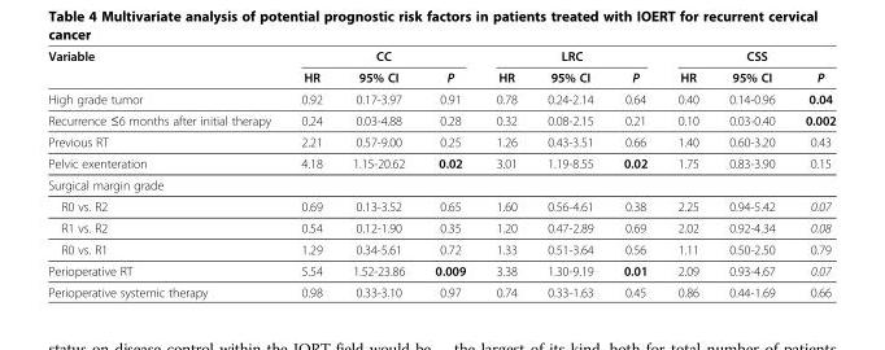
<table><thead><tr><td rowspan="2">Variable</td><td colspan="3">CC</td><td colspan="3">LRC</td><td colspan="3">CSS</td></tr><tr><td>HR</td><td>95% CI</td><td>P</td><td>HR</td><td>95% CI</td><td>P</td><td>HR</td><td>95% CI</td><td>P</td></tr></thead><tbody><tr><td>High grade tumor</td><td>0.92</td><td>0.17-3.97</td><td>0.91</td><td>0.78</td><td>0.24-2.14</td><td>0.64</td><td>0.40</td><td>0.14-0.96</td><td>0.04</td></tr><tr><td>Recurrence ≤6 months after initial therapy</td><td>0.24</td><td>0.03-4.88</td><td>0.28</td><td>0.32</td><td>0.08-2.15</td><td>0.21</td><td>0.10</td><td>0.03-0.40</td><td>0.002</td></tr><tr><td>Previous RT</td><td>2.21</td><td>0.57-9.00</td><td>0.25</td><td>1.26</td><td>0.43-3.51</td><td>0.66</td><td>1.40</td><td>0.60-3.20</td><td>0.43</td></tr><tr><td>Pelvic exenteration</td><td>4.18</td><td>1.15-20.62</td><td>0.02</td><td>3.01</td><td>1.19-8.55</td><td>0.02</td><td>1.75</td><td>0.83-3.90</td><td>0.15</td></tr><tr><td colspan="10">Surgical margin grade</td></tr><tr><td>R0 vs. R2</td><td>0.69</td><td>0.13-3.52</td><td>0.65</td><td>1.60</td><td>0.56-4.61</td><td>0.38</td><td>2.25</td><td>0.94-5.42</td><td>0.07</td></tr><tr><td>R1 vs. R2</td><td>0.54</td><td>0.12-1.90</td><td>0.35</td><td>1.20</td><td>0.47-2.89</td><td>0.69</td><td>2.02</td><td>0.92-4.34</td><td>0.08</td></tr><tr><td>R0 vs. R1</td><td>1.29</td><td>0.34-5.61</td><td>0.72</td><td>1.33</td><td>0.51-3.64</td><td>0.56</td><td>1.11</td><td>0.50-2.50</td><td>0.79</td></tr><tr><td>Perioperative RT</td><td>5.54</td><td>1.52-23.86</td><td>0.009</td><td>3.38</td><td>1.30-9.19</td><td>0.01</td><td>2.09</td><td>0.93-4.67</td><td>0.07</td></tr><tr><td>Perioperative systemic therapy</td><td>0.98</td><td>0.33-3.10</td><td>0.97</td><td>0.74</td><td>0.33-1.63</td><td>0.45</td><td>0.86</td><td>0.44-1.69</td><td>0.66</td></tr></tbody></table>